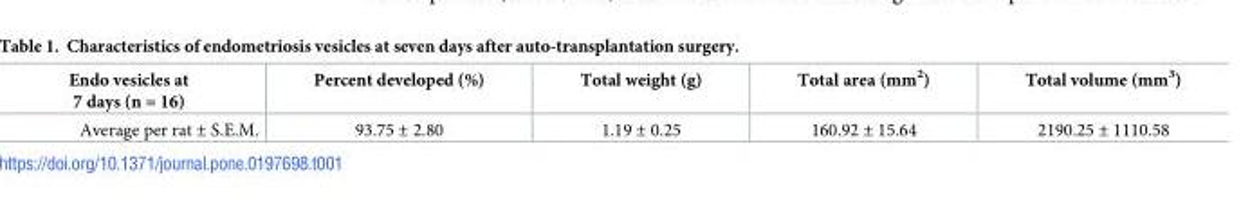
<table><thead><tr><td>Endo vesicles at 7 days (n = 16)</td><td>Percent developed (%)</td><td>Total weight (g)</td><td>Total area (mm<sup>2</sup>)</td><td>Total volume (mm<sup>3</sup>)</td></tr></thead><tbody><tr><td>Average per rat ± S.E.M.</td><td>93.75 ± 2.80</td><td>1.19 ± 0.25</td><td>160.92 ± 15.64</td><td>2190.25 ± 1110.58</td></tr></tbody></table>